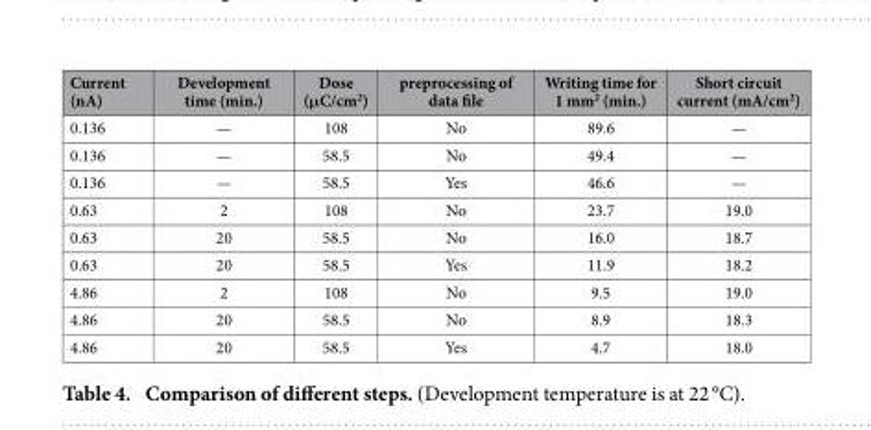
<table><thead><tr><td>Current (nA)</td><td>Development time (min.)</td><td>Dose (μC/cm<sup>2</sup>)</td><td>preprocessing of data file</td><td>Writing time for 1 mm<sup>2</sup> (min.)</td><td>Short circuit current (mA/cm<sup>2</sup>)</td></tr></thead><tbody><tr><td>0.136</td><td>—</td><td>108</td><td>No</td><td>89.6</td><td>—</td></tr><tr><td>0.136</td><td>—</td><td>58.5</td><td>No</td><td>49.4</td><td>—</td></tr><tr><td>0.136</td><td>—</td><td>58.5</td><td>Yes</td><td>46.6</td><td>—</td></tr><tr><td>0.63</td><td>2</td><td>108</td><td>No</td><td>23.7</td><td>19.0</td></tr><tr><td>0.63</td><td>20</td><td>58.5</td><td>No</td><td>16.0</td><td>18.7</td></tr><tr><td>0.63</td><td>20</td><td>58.5</td><td>Yes</td><td>11.9</td><td>18.2</td></tr><tr><td>4.86</td><td>2</td><td>108</td><td>No</td><td>9.5</td><td>19.0</td></tr><tr><td>4.86</td><td>20</td><td>58.5</td><td>No</td><td>8.9</td><td>18.3</td></tr><tr><td>4.86</td><td>20</td><td>58.5</td><td>Yes</td><td>4.7</td><td>18.0</td></tr></tbody></table>